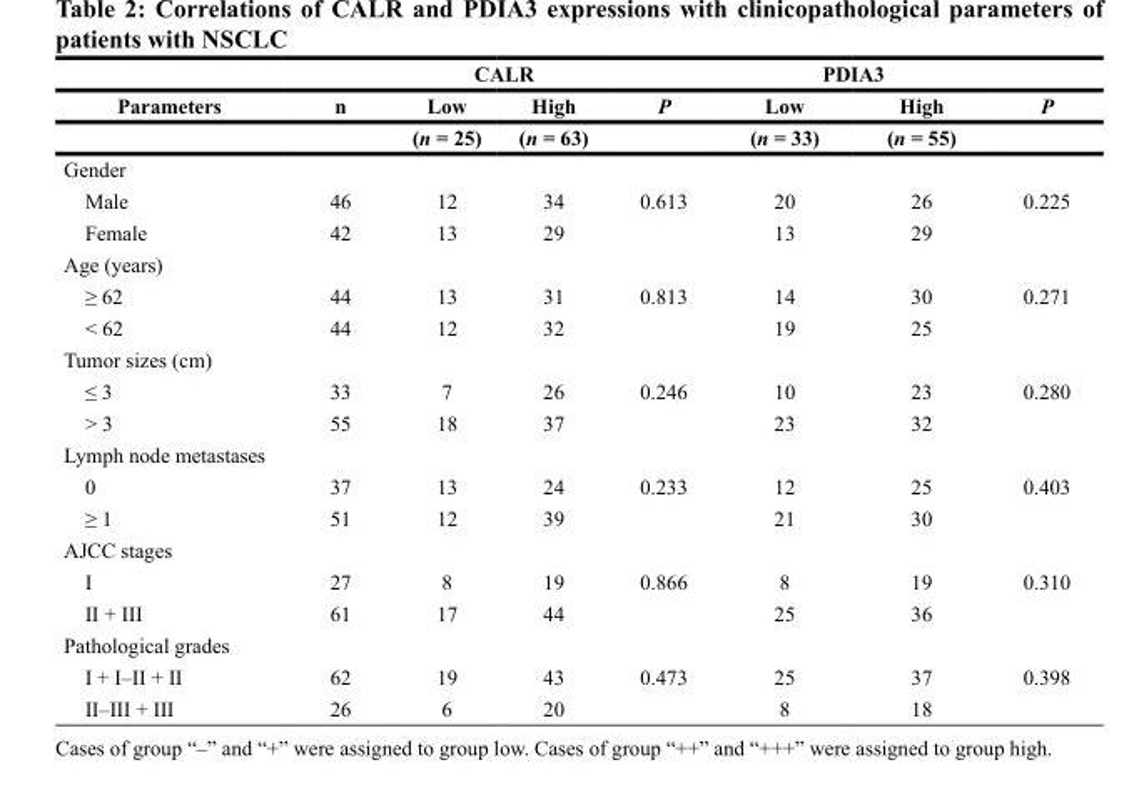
<table><thead><tr><td rowspan="3">Parameters</td><td rowspan="3">n</td><td colspan="2">CALR</td><td rowspan="3">P</td><td colspan="2">PDIA3</td><td rowspan="3">P</td></tr><tr><td rowspan="2">Low (n = 25)</td><td rowspan="2">High (n = 63)</td><td rowspan="2">Low (n = 33)</td><td rowspan="2">High (n = 55)</td></tr><tr></tr></thead><tbody><tr><td colspan="8">Gender</td></tr><tr><td>Male</td><td>46</td><td>12</td><td>34</td><td>0.613</td><td>20</td><td>26</td><td>0.225</td></tr><tr><td>Female</td><td>42</td><td>13</td><td>29</td><td></td><td>13</td><td>29</td><td></td></tr><tr><td colspan="8">Age (years)</td></tr><tr><td>≥ 62</td><td>44</td><td>13</td><td>31</td><td>0.813</td><td>14</td><td>30</td><td>0.271</td></tr><tr><td>&lt; 62</td><td>44</td><td>12</td><td>32</td><td></td><td>19</td><td>25</td><td></td></tr><tr><td colspan="8">Tumor sizes (cm)</td></tr><tr><td>≤ 3</td><td>33</td><td>7</td><td>26</td><td>0.246</td><td>10</td><td>23</td><td>0.280</td></tr><tr><td>&gt; 3</td><td>55</td><td>18</td><td>37</td><td></td><td>23</td><td>32</td><td></td></tr><tr><td colspan="8">Lymph node metastases</td></tr><tr><td>0</td><td>37</td><td>13</td><td>24</td><td>0.233</td><td>12</td><td>25</td><td>0.403</td></tr><tr><td>≥ 1</td><td>51</td><td>12</td><td>39</td><td></td><td>21</td><td>30</td><td></td></tr><tr><td colspan="8">AJCC stages</td></tr><tr><td>I</td><td>27</td><td>8</td><td>19</td><td>0.866</td><td>8</td><td>19</td><td>0.310</td></tr><tr><td>II + III</td><td>61</td><td>17</td><td>44</td><td></td><td>25</td><td>36</td><td></td></tr><tr><td colspan="8">Pathological grades</td></tr><tr><td>I + I–II + II</td><td>62</td><td>19</td><td>43</td><td>0.473</td><td>25</td><td>37</td><td>0.398</td></tr><tr><td>II–III + III</td><td>26</td><td>6</td><td>20</td><td></td><td>8</td><td>18</td><td></td></tr></tbody></table>